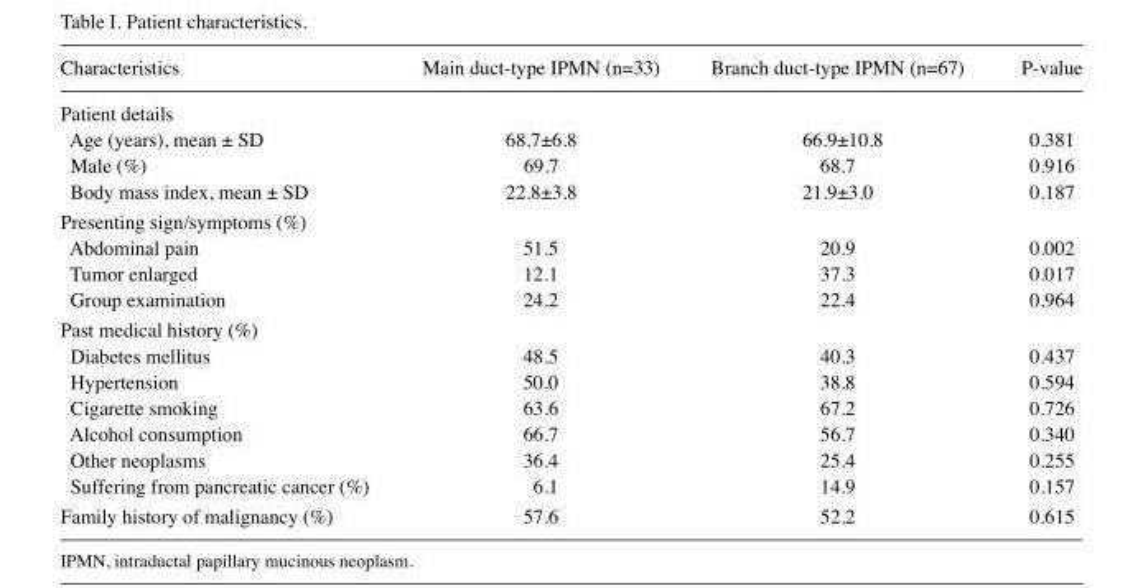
<table><thead><tr><td>Characteristics</td><td>Main duct-type IPMN (n=33)</td><td>Branch duct-type IPMN (n=67)</td><td>P-value</td></tr></thead><tbody><tr><td colspan="4">Patient details</td></tr><tr><td>Age (years), mean ± SD</td><td>68.7±6.8</td><td>66.9±10.8</td><td>0.381</td></tr><tr><td>Male (%)</td><td>69.7</td><td>68.7</td><td>0.916</td></tr><tr><td>Body mass index, mean ± SD</td><td>22.8±3.8</td><td>21.9±3.0</td><td>0.187</td></tr><tr><td colspan="4">Presenting sign/symptoms (%)</td></tr><tr><td>Abdominal pain</td><td>51.5</td><td>20.9</td><td>0.002</td></tr><tr><td>Tumor enlarged</td><td>12.1</td><td>37.3</td><td>0.017</td></tr><tr><td>Group examination</td><td>24.2</td><td>22.4</td><td>0.964</td></tr><tr><td colspan="4">Past medical history (%)</td></tr><tr><td>Diabetes mellitus</td><td>48.5</td><td>40.3</td><td>0.437</td></tr><tr><td>Hypertension</td><td>50.0</td><td>38.8</td><td>0.594</td></tr><tr><td>Cigarette smoking</td><td>63.6</td><td>67.2</td><td>0.726</td></tr><tr><td>Alcohol consumption</td><td>66.7</td><td>56.7</td><td>0.340</td></tr><tr><td>Other neoplasms</td><td>36.4</td><td>25.4</td><td>0.255</td></tr><tr><td>Suffering from pancreatic cancer (%)</td><td>6.1</td><td>14.9</td><td>0.157</td></tr><tr><td>Family history of malignancy (%)</td><td>57.6</td><td>52.2</td><td>0.615</td></tr></tbody></table>